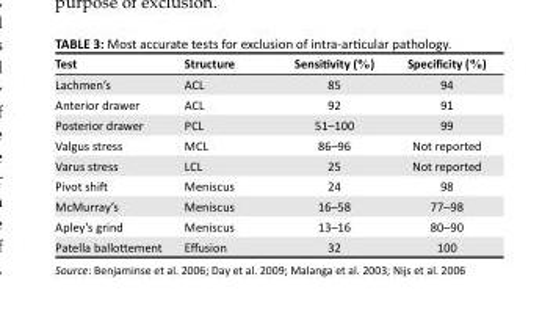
<table><thead><tr><td>Test</td><td>Structure</td><td>Sensitivity (%)</td><td>Specificity (%)</td></tr></thead><tbody><tr><td>Lachmen’s</td><td>ACL</td><td>85</td><td>94</td></tr><tr><td>Anterior drawer</td><td>ACL</td><td>92</td><td>91</td></tr><tr><td>Posterior drawer</td><td>PCL</td><td>51–100</td><td>99</td></tr><tr><td>Valgus stress</td><td>MCL</td><td>86–96</td><td>Not reported</td></tr><tr><td>Varus stress</td><td>LCL</td><td>25</td><td>Not reported</td></tr><tr><td>Pivot shift</td><td>Meniscus</td><td>24</td><td>98</td></tr><tr><td>McMurray’s</td><td>Meniscus</td><td>16–58</td><td>77–98</td></tr><tr><td>Apley’s grind</td><td>Meniscus</td><td>13–16</td><td>80–90</td></tr><tr><td>Patella ballottement</td><td>Effusion</td><td>32</td><td>100</td></tr></tbody></table>